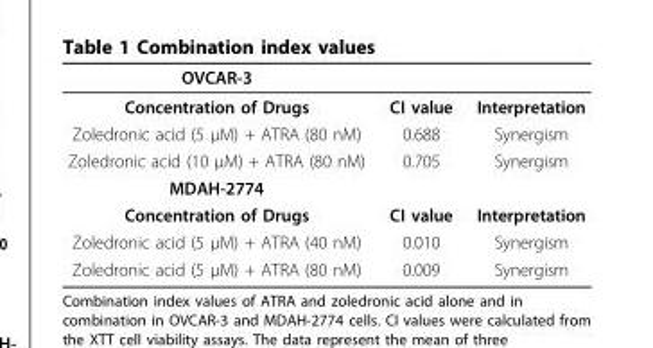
<table><thead><tr><td>OVCAR-3</td><td></td><td></td></tr></thead><tbody><tr><td>Concentration of Drugs</td><td>CI value</td><td>Interpretation</td></tr><tr><td>Zoledronic acid (5 μM) + ATRA (80 nM)</td><td>0.688</td><td>Synergism</td></tr><tr><td>Zoledronic acid (10 μM) + ATRA (80 nM)</td><td>0.705</td><td>Synergism</td></tr><tr><td colspan="3">MDAH-2774</td></tr><tr><td>Concentration of Drugs</td><td>CI value</td><td>Interpretation</td></tr><tr><td>Zoledronic acid (5 μM) + ATRA (40 nM)</td><td>0.010</td><td>Synergism</td></tr><tr><td>Zoledronic acid (5 μM) + ATRA (80 nM)</td><td>0.009</td><td>Synergism</td></tr></tbody></table>